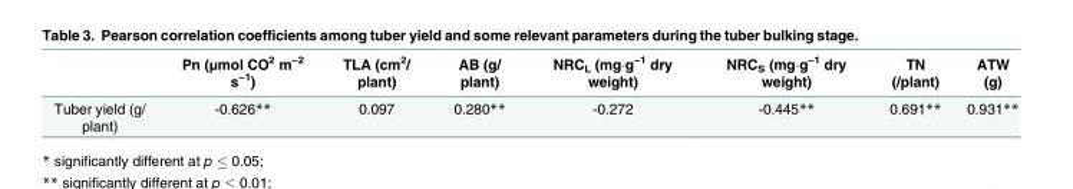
<table><thead><tr><td></td><td>Pn (μmol CO<sup>2</sup> m<sup>−2</sup> s<sup>−1</sup>)</td><td>TLA (cm<sup>2</sup>/ plant)</td><td>AB (g/ plant)</td><td>NRC<sub>L</sub> (mg∙g<sup>−1</sup> dry weight)</td><td>NRC<sub>S</sub> (mg∙g<sup>−1</sup> dry weight)</td><td>TN (/plant)</td><td>ATW (g)</td></tr></thead><tbody><tr><td>Tuber yield (g/ plant)</td><td>-0.626**</td><td>0.097</td><td>0.280**</td><td>-0.272</td><td>-0.445**</td><td>0.691**</td><td>0.931**</td></tr></tbody></table>